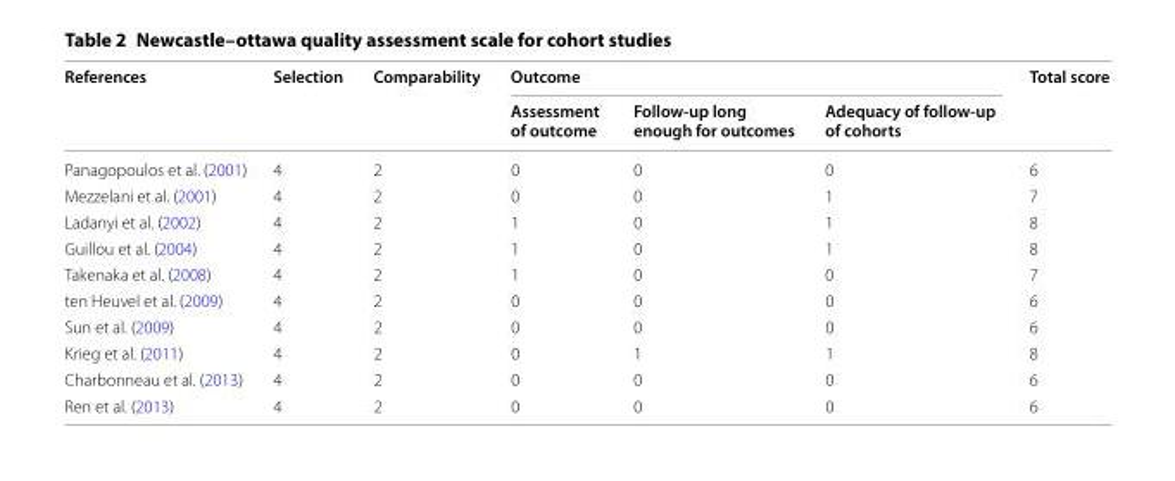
<table><thead><tr><td rowspan="2">References</td><td rowspan="2">Selection</td><td rowspan="2">Comparability</td><td colspan="3">Outcome</td><td rowspan="2">Total score</td></tr><tr><td>Assessment of outcome</td><td>Follow‑up long enough for outcomes</td><td>Adequacy of follow‑up of cohorts</td></tr></thead><tbody><tr><td>Panagopoulos et al. (2001)</td><td>4</td><td>2</td><td>0</td><td>0</td><td>0</td><td>6</td></tr><tr><td>Mezzelani et al. (2001)</td><td>4</td><td>2</td><td>0</td><td>0</td><td>1</td><td>7</td></tr><tr><td>Ladanyi et al. (2002)</td><td>4</td><td>2</td><td>1</td><td>0</td><td>1</td><td>8</td></tr><tr><td>Guillou et al. (2004)</td><td>4</td><td>2</td><td>1</td><td>0</td><td>1</td><td>8</td></tr><tr><td>Takenaka et al. (2008)</td><td>4</td><td>2</td><td>1</td><td>0</td><td>0</td><td>7</td></tr><tr><td>ten Heuvel et al. (2009)</td><td>4</td><td>2</td><td>0</td><td>0</td><td>0</td><td>6</td></tr><tr><td>Sun et al. (2009)</td><td>4</td><td>2</td><td>0</td><td>0</td><td>0</td><td>6</td></tr><tr><td>Krieg et al. (2011)</td><td>4</td><td>2</td><td>0</td><td>1</td><td>1</td><td>8</td></tr><tr><td>Charbonneau et al. (2013)</td><td>4</td><td>2</td><td>0</td><td>0</td><td>0</td><td>6</td></tr><tr><td>Ren et al. (2013)</td><td>4</td><td>2</td><td>0</td><td>0</td><td>0</td><td>6</td></tr></tbody></table>